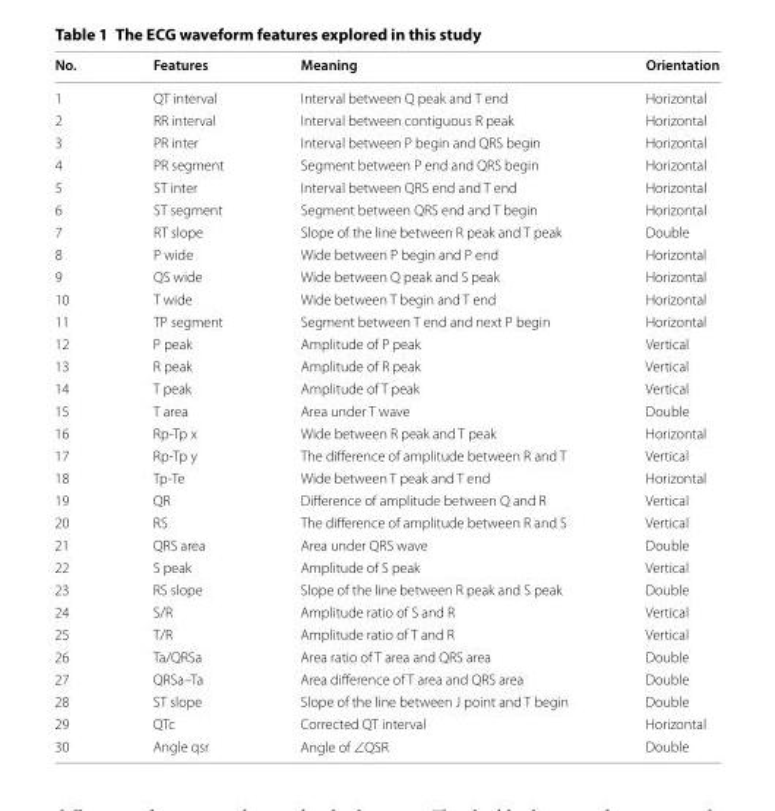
<table><thead><tr><td>No.</td><td>Features</td><td>Meaning</td><td>Orientation</td></tr></thead><tbody><tr><td>1</td><td>QT interval</td><td>Interval between Q peak and T end</td><td>Horizontal</td></tr><tr><td>2</td><td>RR interval</td><td>Interval between contiguous R peak</td><td>Horizontal</td></tr><tr><td>3</td><td>PR inter</td><td>Interval between P begin and QRS begin</td><td>Horizontal</td></tr><tr><td>4</td><td>PR segment</td><td>Segment between P end and QRS begin</td><td>Horizontal</td></tr><tr><td>5</td><td>ST inter</td><td>Interval between QRS end and T end</td><td>Horizontal</td></tr><tr><td>6</td><td>ST segment</td><td>Segment between QRS end and T begin</td><td>Horizontal</td></tr><tr><td>7</td><td>RT slope</td><td>Slope of the line between R peak and T peak</td><td>Double</td></tr><tr><td>8</td><td>P wide</td><td>Wide between P begin and P end</td><td>Horizontal</td></tr><tr><td>9</td><td>QS wide</td><td>Wide between Q peak and S peak</td><td>Horizontal</td></tr><tr><td>10</td><td>T wide</td><td>Wide between T begin and T end</td><td>Horizontal</td></tr><tr><td>11</td><td>TP segment</td><td>Segment between T end and next P begin</td><td>Horizontal</td></tr><tr><td>12</td><td>P peak</td><td>Amplitude of P peak</td><td>Vertical</td></tr><tr><td>13</td><td>R peak</td><td>Amplitude of R peak</td><td>Vertical</td></tr><tr><td>14</td><td>T peak</td><td>Amplitude of T peak</td><td>Vertical</td></tr><tr><td>15</td><td>T area</td><td>Area under T wave</td><td>Double</td></tr><tr><td>16</td><td>Rp-Tp x</td><td>Wide between R peak and T peak</td><td>Horizontal</td></tr><tr><td>17</td><td>Rp-Tp y</td><td>The difference of amplitude between R and T</td><td>Vertical</td></tr><tr><td>18</td><td>Tp-Te</td><td>Wide between T peak and T end</td><td>Horizontal</td></tr><tr><td>19</td><td>QR</td><td>Difference of amplitude between Q and R</td><td>Vertical</td></tr><tr><td>20</td><td>RS</td><td>The difference of amplitude between R and S</td><td>Vertical</td></tr><tr><td>21</td><td>QRS area</td><td>Area under QRS wave</td><td>Double</td></tr><tr><td>22</td><td>S peak</td><td>Amplitude of S peak</td><td>Vertical</td></tr><tr><td>23</td><td>RS slope</td><td>Slope of the line between R peak and S peak</td><td>Double</td></tr><tr><td>24</td><td>S/R</td><td>Amplitude ratio of S and R</td><td>Vertical</td></tr><tr><td>25</td><td>T/R</td><td>Amplitude ratio of T and R</td><td>Vertical</td></tr><tr><td>26</td><td>Ta/QRSa</td><td>Area ratio of T area and QRS area</td><td>Double</td></tr><tr><td>27</td><td>QRSa–Ta</td><td>Area difference of T area and QRS area</td><td>Double</td></tr><tr><td>28</td><td>ST slope</td><td>Slope of the line between J point and T begin</td><td>Double</td></tr><tr><td>29</td><td>QTc</td><td>Corrected QT interval</td><td>Horizontal</td></tr><tr><td>30</td><td>Angle qsr</td><td>Angle of ∠QSR</td><td>Double</td></tr></tbody></table>